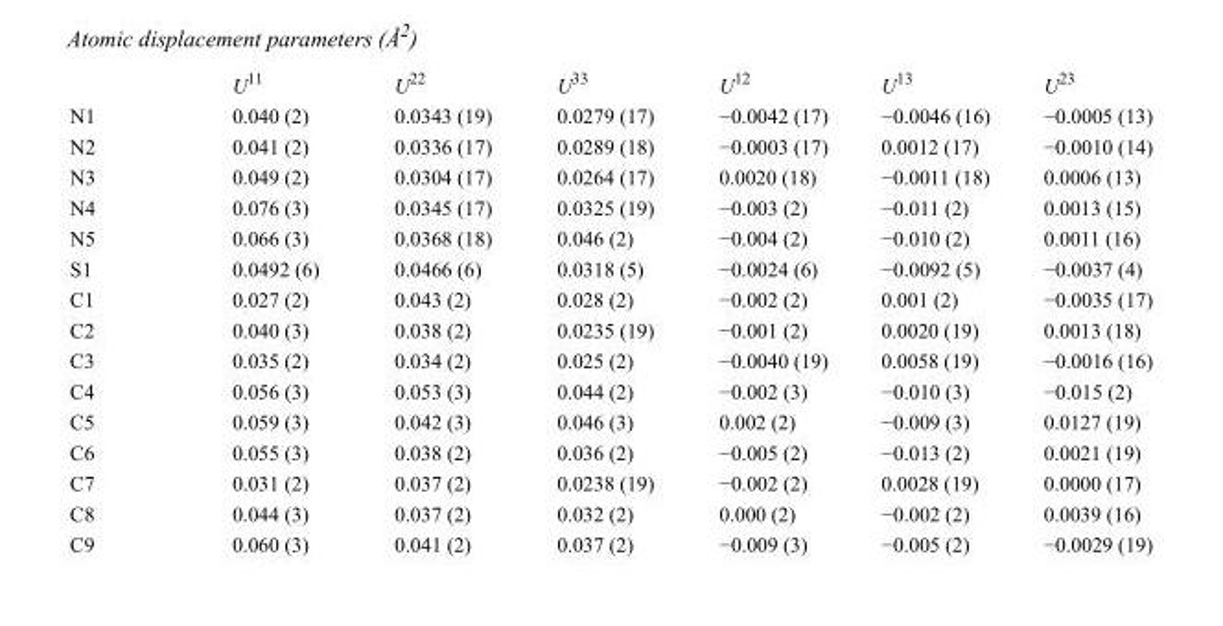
<table><thead><tr><td></td><td>U<sup>11</sup></td><td>U<sup>22</sup></td><td>U<sup>33</sup></td><td>U<sup>12</sup></td><td>U<sup>13</sup></td><td>U<sup>23</sup></td></tr></thead><tbody><tr><td>N1</td><td>0.040 (2)</td><td>0.0343 (19)</td><td>0.0279 (17)</td><td>−0.0042 (17)</td><td>−0.0046 (16)</td><td>−0.0005 (13)</td></tr><tr><td>N2</td><td>0.041 (2)</td><td>0.0336 (17)</td><td>0.0289 (18)</td><td>−0.0003 (17)</td><td>0.0012 (17)</td><td>−0.0010 (14)</td></tr><tr><td>N3</td><td>0.049 (2)</td><td>0.0304 (17)</td><td>0.0264 (17)</td><td>0.0020 (18)</td><td>−0.0011 (18)</td><td>0.0006 (13)</td></tr><tr><td>N4</td><td>0.076 (3)</td><td>0.0345 (17)</td><td>0.0325 (19)</td><td>−0.003 (2)</td><td>−0.011 (2)</td><td>0.0013 (15)</td></tr><tr><td>N5</td><td>0.066 (3)</td><td>0.0368 (18)</td><td>0.046 (2)</td><td>−0.004 (2)</td><td>−0.010 (2)</td><td>0.0011 (16)</td></tr><tr><td>S1</td><td>0.0492 (6)</td><td>0.0466 (6)</td><td>0.0318 (5)</td><td>−0.0024 (6)</td><td>−0.0092 (5)</td><td>−0.0037 (4)</td></tr><tr><td>C1</td><td>0.027 (2)</td><td>0.043 (2)</td><td>0.028 (2)</td><td>−0.002 (2)</td><td>0.001 (2)</td><td>−0.0035 (17)</td></tr><tr><td>C2</td><td>0.040 (3)</td><td>0.038 (2)</td><td>0.0235 (19)</td><td>−0.001 (2)</td><td>0.0020 (19)</td><td>0.0013 (18)</td></tr><tr><td>C3</td><td>0.035 (2)</td><td>0.034 (2)</td><td>0.025 (2)</td><td>−0.0040 (19)</td><td>0.0058 (19)</td><td>−0.0016 (16)</td></tr><tr><td>C4</td><td>0.056 (3)</td><td>0.053 (3)</td><td>0.044 (2)</td><td>−0.002 (3)</td><td>−0.010 (3)</td><td>−0.015 (2)</td></tr><tr><td>C5</td><td>0.059 (3)</td><td>0.042 (3)</td><td>0.046 (3)</td><td>0.002 (2)</td><td>−0.009 (3)</td><td>0.0127 (19)</td></tr><tr><td>C6</td><td>0.055 (3)</td><td>0.038 (2)</td><td>0.036 (2)</td><td>−0.005 (2)</td><td>−0.013 (2)</td><td>0.0021 (19)</td></tr><tr><td>C7</td><td>0.031 (2)</td><td>0.037 (2)</td><td>0.0238 (19)</td><td>−0.002 (2)</td><td>0.0028 (19)</td><td>0.0000 (17)</td></tr><tr><td>C8</td><td>0.044 (3)</td><td>0.037 (2)</td><td>0.032 (2)</td><td>0.000 (2)</td><td>−0.002 (2)</td><td>0.0039 (16)</td></tr><tr><td>C9</td><td>0.060 (3)</td><td>0.041 (2)</td><td>0.037 (2)</td><td>−0.009 (3)</td><td>−0.005 (2)</td><td>−0.0029 (19)</td></tr></tbody></table>